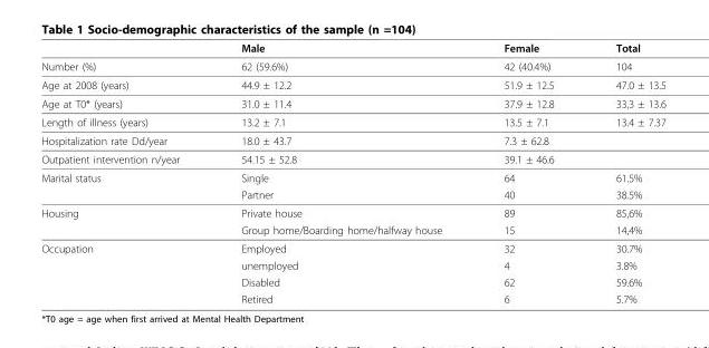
<table><thead><tr><td></td><td>Male</td><td>Female</td><td>Total</td></tr></thead><tbody><tr><td>Number (%)</td><td>62 (59.6%)</td><td>42 (40.4%)</td><td>104</td></tr><tr><td>Age at 2008 (years)</td><td>44.9 ± 12.2</td><td>51.9 ± 12.5</td><td>47.0 ± 13.5</td></tr><tr><td>Age at T0* (years)</td><td>31.0 ± 11.4</td><td>37.9 ± 12.8</td><td>33,3 ± 13.6</td></tr><tr><td>Length of illness (years)</td><td>13.2 ± 7.1</td><td>13.5 ± 7.1</td><td>13.4 ± 7.37</td></tr><tr><td>Hospitalization rate Dd/year</td><td>18.0 ± 43.7</td><td>7.3 ± 62.8</td><td></td></tr><tr><td>Outpatient intervention n/year</td><td>54.15 ± 52.8</td><td>39.1 ± 46.6</td><td></td></tr><tr><td rowspan="2">Marital status</td><td>Single</td><td>64</td><td>61.5%</td></tr><tr><td>Partner</td><td>40</td><td>38.5%</td></tr><tr><td rowspan="2">Housing</td><td>Private house</td><td>89</td><td>85,6%</td></tr><tr><td>Group home/Boarding home/halfway house</td><td>15</td><td>14,4%</td></tr><tr><td rowspan="4">Occupation</td><td>Employed</td><td>32</td><td>30.7%</td></tr><tr><td>unemployed</td><td>4</td><td>3.8%</td></tr><tr><td>Disabled</td><td>62</td><td>59.6%</td></tr><tr><td>Retired</td><td>6</td><td>5.7%</td></tr></tbody></table>